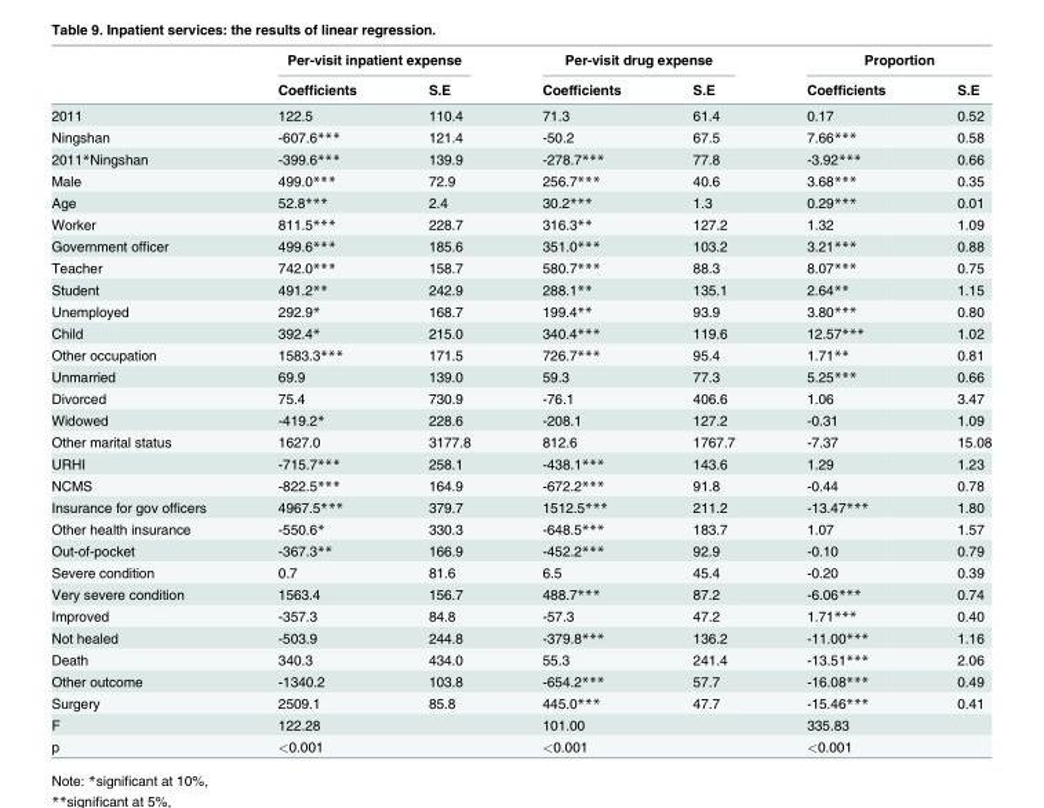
<table><thead><tr><td rowspan="2"></td><td colspan="2">Per-visit inpatient expense</td><td colspan="2">Per-visit drug expense</td><td colspan="2">Proportion</td></tr><tr><td>Coefficients</td><td>S.E</td><td>Coefficients</td><td>S.E</td><td>Coefficients</td><td>S.E</td></tr></thead><tbody><tr><td>2011</td><td>122.5</td><td>110.4</td><td>71.3</td><td>61.4</td><td>0.17</td><td>0.52</td></tr><tr><td>Ningshan</td><td>-607.6***</td><td>121.4</td><td>-50.2</td><td>67.5</td><td>7.66***</td><td>0.58</td></tr><tr><td>2011*Ningshan</td><td>-399.6***</td><td>139.9</td><td>-278.7***</td><td>77.8</td><td>-3.92***</td><td>0.66</td></tr><tr><td>Male</td><td>499.0***</td><td>72.9</td><td>256.7***</td><td>40.6</td><td>3.68***</td><td>0.35</td></tr><tr><td>Age</td><td>52.8***</td><td>2.4</td><td>30.2***</td><td>1.3</td><td>0.29***</td><td>0.01</td></tr><tr><td>Worker</td><td>811.5***</td><td>228.7</td><td>316.3**</td><td>127.2</td><td>1.32</td><td>1.09</td></tr><tr><td>Government officer</td><td>499.6***</td><td>185.6</td><td>351.0***</td><td>103.2</td><td>3.21***</td><td>0.88</td></tr><tr><td>Teacher</td><td>742.0***</td><td>158.7</td><td>580.7***</td><td>88.3</td><td>8.07***</td><td>0.75</td></tr><tr><td>Student</td><td>491.2**</td><td>242.9</td><td>288.1**</td><td>135.1</td><td>2.64**</td><td>1.15</td></tr><tr><td>Unemployed</td><td>292.9*</td><td>168.7</td><td>199.4**</td><td>93.9</td><td>3.80***</td><td>0.80</td></tr><tr><td>Child</td><td>392.4*</td><td>215.0</td><td>340.4***</td><td>119.6</td><td>12.57***</td><td>1.02</td></tr><tr><td>Other occupation</td><td>1583.3***</td><td>171.5</td><td>726.7***</td><td>95.4</td><td>1.71**</td><td>0.81</td></tr><tr><td>Unmarried</td><td>69.9</td><td>139.0</td><td>59.3</td><td>77.3</td><td>5.25***</td><td>0.66</td></tr><tr><td>Divorced</td><td>75.4</td><td>730.9</td><td>-76.1</td><td>406.6</td><td>1.06</td><td>3.47</td></tr><tr><td>Widowed</td><td>-419.2*</td><td>228.6</td><td>-208.1</td><td>127.2</td><td>-0.31</td><td>1.09</td></tr><tr><td>Other marital status</td><td>1627.0</td><td>3177.8</td><td>812.6</td><td>1767.7</td><td>-7.37</td><td>15.08</td></tr><tr><td>URHI</td><td>-715.7***</td><td>258.1</td><td>-438.1***</td><td>143.6</td><td>1.29</td><td>1.23</td></tr><tr><td>NCMS</td><td>-822.5***</td><td>164.9</td><td>-672.2***</td><td>91.8</td><td>-0.44</td><td>0.78</td></tr><tr><td>Insurance for gov officers</td><td>4967.5***</td><td>379.7</td><td>1512.5***</td><td>211.2</td><td>-13.47***</td><td>1.80</td></tr><tr><td>Other health insurance</td><td>-550.6*</td><td>330.3</td><td>-648.5***</td><td>183.7</td><td>1.07</td><td>1.57</td></tr><tr><td>Out-of-pocket</td><td>-367.3**</td><td>166.9</td><td>-452.2***</td><td>92.9</td><td>-0.10</td><td>0.79</td></tr><tr><td>Severe condition</td><td>0.7</td><td>81.6</td><td>6.5</td><td>45.4</td><td>-0.20</td><td>0.39</td></tr><tr><td>Very severe condition</td><td>1563.4</td><td>156.7</td><td>488.7***</td><td>87.2</td><td>-6.06***</td><td>0.74</td></tr><tr><td>Improved</td><td>-357.3</td><td>84.8</td><td>-57.3</td><td>47.2</td><td>1.71***</td><td>0.40</td></tr><tr><td>Not healed</td><td>-503.9</td><td>244.8</td><td>-379.8***</td><td>136.2</td><td>-11.00***</td><td>1.16</td></tr><tr><td>Death</td><td>340.3</td><td>434.0</td><td>55.3</td><td>241.4</td><td>-13.51***</td><td>2.06</td></tr><tr><td>Other outcome</td><td>-1340.2</td><td>103.8</td><td>-654.2***</td><td>57.7</td><td>-16.08***</td><td>0.49</td></tr><tr><td>Surgery</td><td>2509.1</td><td>85.8</td><td>445.0***</td><td>47.7</td><td>-15.46***</td><td>0.41</td></tr><tr><td>F</td><td colspan="2">122.28</td><td colspan="2">101.00</td><td colspan="2">335.83</td></tr><tr><td>p</td><td colspan="2">&lt;0.001</td><td colspan="2">&lt;0.001</td><td colspan="2">&lt;0.001</td></tr></tbody></table>